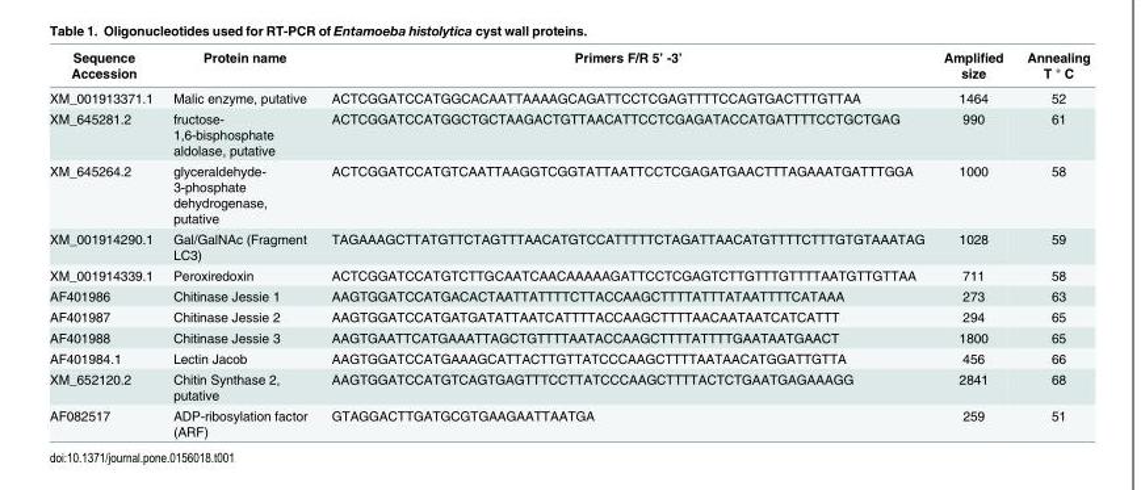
<table><thead><tr><td>Sequence Accession</td><td>Protein name</td><td>Primers F/R 5’ -3’</td><td>Amplified size</td><td>Annealing T ° C</td></tr></thead><tbody><tr><td>XM_001913371.1</td><td>Malic enzyme, putative</td><td>ACTCGGATCCATGGCACAATTAAAAGCAGATTCCTCGAGTTTTCCAGTGACTTTGTTAA</td><td>1464</td><td>52</td></tr><tr><td>XM_645281.2</td><td>fructose- 1,6-bisphosphate aldolase, putative</td><td>ACTCGGATCCATGGCTGCTAAGACTGTTAACATTCCTCGAGATACCATGATTTTCCTGCTGAG</td><td>990</td><td>61</td></tr><tr><td>XM_645264.2</td><td>glyceraldehyde- 3-phosphate dehydrogenase, putative</td><td>ACTCGGATCCATGTCAATTAAGGTCGGTATTAATTCCTCGAGATGAACTTTAGAAATGATTTGGA</td><td>1000</td><td>58</td></tr><tr><td>XM_001914290.1</td><td>Gal/GalNAc (Fragment LC3)</td><td>TAGAAAGCTTATGTTCTAGTTTAACATGTCCATTTTTCTAGATTAACATGTTTTCTTTGTGTAAATAG</td><td>1028</td><td>59</td></tr><tr><td>XM_001914339.1</td><td>Peroxiredoxin</td><td>ACTCGGATCCATGTCTTGCAATCAACAAAAAGATTCCTCGAGTCTTGTTTGTTTTAATGTTGTTAA</td><td>711</td><td>58</td></tr><tr><td>AF401986</td><td>Chitinase Jessie 1</td><td>AAGTGGATCCATGACACTAATTATTTTCTTACCAAGCTTTTATTTATAATTTTCATAAA</td><td>273</td><td>63</td></tr><tr><td>AF401987</td><td>Chitinase Jessie 2</td><td>AAGTGGATCCATGATGATATTAATCATTTTACCAAGCTTTTAACAATAATCATCATTT</td><td>294</td><td>65</td></tr><tr><td>AF401988</td><td>Chitinase Jessie 3</td><td>AAGTGAATTCATGAAATTAGCTGTTTTAATACCAAGCTTTTATTTTGAATAATGAACT</td><td>1800</td><td>65</td></tr><tr><td>AF401984.1</td><td>Lectin Jacob</td><td>AAGTGGATCCATGAAAGCATTACTTGTTATCCCAAGCTTTTAATAACATGGATTGTTA</td><td>456</td><td>66</td></tr><tr><td>XM_652120.2</td><td>Chitin Synthase 2, putative</td><td>AAGTGGATCCATGTCAGTGAGTTTCCTTATCCCAAGCTTTTACTCTGAATGAGAAAGG</td><td>2841</td><td>68</td></tr><tr><td>AF082517</td><td>ADP-ribosylation factor (ARF)</td><td>GTAGGACTTGATGCGTGAAGAATTAATGA</td><td>259</td><td>51</td></tr></tbody></table>